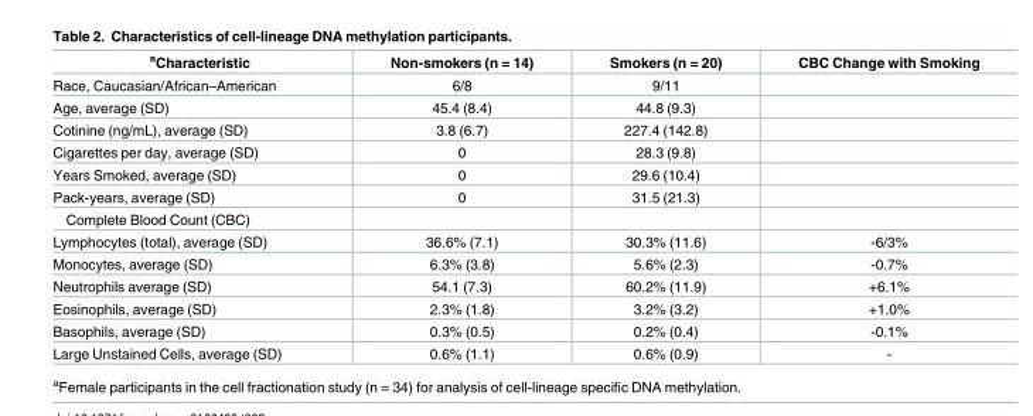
<table><thead><tr><td><sup>a</sup>Characteristic</td><td>Non-smokers (n = 14)</td><td>Smokers (n = 20)</td><td>CBC Change with Smoking</td></tr></thead><tbody><tr><td>Race, Caucasian/African–American</td><td>6/8</td><td>9/11</td><td></td></tr><tr><td>Age, average (SD)</td><td>45.4 (8.4)</td><td>44.8 (9.3)</td><td></td></tr><tr><td>Cotinine (ng/mL), average (SD)</td><td>3.8 (6.7)</td><td>227.4 (142.8)</td><td></td></tr><tr><td>Cigarettes per day, average (SD)</td><td>0</td><td>28.3 (9.8)</td><td></td></tr><tr><td>Years Smoked, average (SD)</td><td>0</td><td>29.6 (10.4)</td><td></td></tr><tr><td>Pack-years, average (SD)</td><td>0</td><td>31.5 (21.3)</td><td></td></tr><tr><td colspan="4">Complete Blood Count (CBC)</td></tr><tr><td>Lymphocytes (total), average (SD)</td><td>36.6% (7.1)</td><td>30.3% (11.6)</td><td>-6/3%</td></tr><tr><td>Monocytes, average (SD)</td><td>6.3% (3.8)</td><td>5.6% (2.3)</td><td>-0.7%</td></tr><tr><td>Neutrophils average (SD)</td><td>54.1 (7.3)</td><td>60.2% (11.9)</td><td>+6.1%</td></tr><tr><td>Eosinophils, average (SD)</td><td>2.3% (1.8)</td><td>3.2% (3.2)</td><td>+1.0%</td></tr><tr><td>Basophils, average (SD)</td><td>0.3% (0.5)</td><td>0.2% (0.4)</td><td>-0.1%</td></tr><tr><td>Large Unstained Cells, average (SD)</td><td>0.6% (1.1)</td><td>0.6% (0.9)</td><td>-</td></tr></tbody></table>